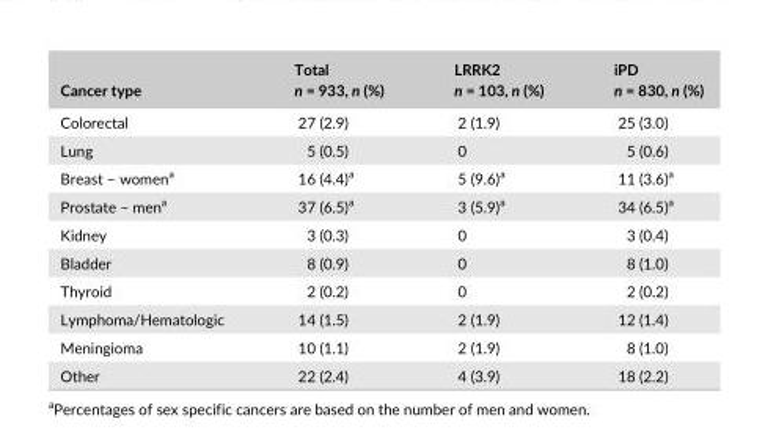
<table><thead><tr><td>Cancer type</td><td>Total n = 933, n (%)</td><td>LRRK2 n = 103, n (%)</td><td>iPD n = 830, n (%)</td></tr></thead><tbody><tr><td>Colorectal</td><td>27 (2.9)</td><td>2 (1.9)</td><td>25 (3.0)</td></tr><tr><td>Lung</td><td>5 (0.5)</td><td>0</td><td>5 (0.6)</td></tr><tr><td>Breast – women<sup>a</sup></td><td>16 (4.4)<sup>a</sup></td><td>5 (9.6)<sup>a</sup></td><td>11 (3.6)<sup>a</sup></td></tr><tr><td>Prostate – men<sup>a</sup></td><td>37 (6.5)<sup>a</sup></td><td>3 (5.9)<sup>a</sup></td><td>34 (6.5)<sup>a</sup></td></tr><tr><td>Kidney</td><td>3 (0.3)</td><td>0</td><td>3 (0.4)</td></tr><tr><td>Bladder</td><td>8 (0.9)</td><td>0</td><td>8 (1.0)</td></tr><tr><td>Thyroid</td><td>2 (0.2)</td><td>0</td><td>2 (0.2)</td></tr><tr><td>Lymphoma/Hematologic</td><td>14 (1.5)</td><td>2 (1.9)</td><td>12 (1.4)</td></tr><tr><td>Meningioma</td><td>10 (1.1)</td><td>2 (1.9)</td><td>8 (1.0)</td></tr><tr><td>Other</td><td>22 (2.4)</td><td>4 (3.9)</td><td>18 (2.2)</td></tr></tbody></table>